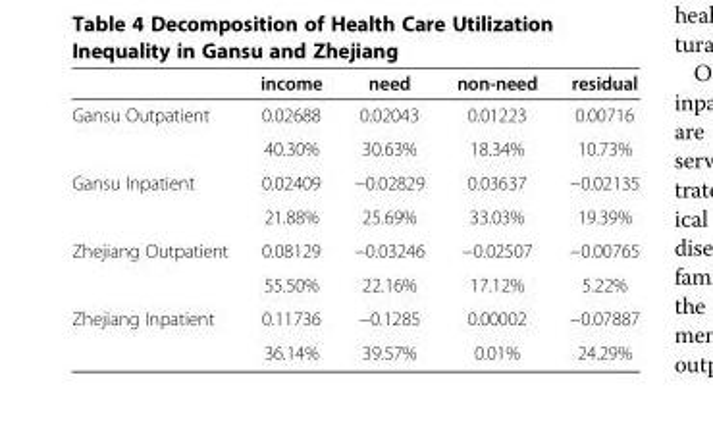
<table><thead><tr><td></td><td>income</td><td>need</td><td>non-need</td><td>residual</td></tr></thead><tbody><tr><td rowspan="2">Gansu Outpatient</td><td>0.02688</td><td>0.02043</td><td>0.01223</td><td>0.00716</td></tr><tr><td>40.30%</td><td>30.63%</td><td>18.34%</td><td>10.73%</td></tr><tr><td rowspan="2">Gansu Inpatient</td><td>0.02409</td><td>−0.02829</td><td>0.03637</td><td>−0.02135</td></tr><tr><td>21.88%</td><td>25.69%</td><td>33.03%</td><td>19.39%</td></tr><tr><td rowspan="2">Zhejiang Outpatient</td><td>0.08129</td><td>−0.03246</td><td>−0.02507</td><td>−0.00765</td></tr><tr><td>55.50%</td><td>22.16%</td><td>17.12%</td><td>5.22%</td></tr><tr><td rowspan="2">Zhejiang Inpatient</td><td>0.11736</td><td>−0.1285</td><td>0.00002</td><td>−0.07887</td></tr><tr><td>36.14%</td><td>39.57%</td><td>0.01%</td><td>24.29%</td></tr></tbody></table>